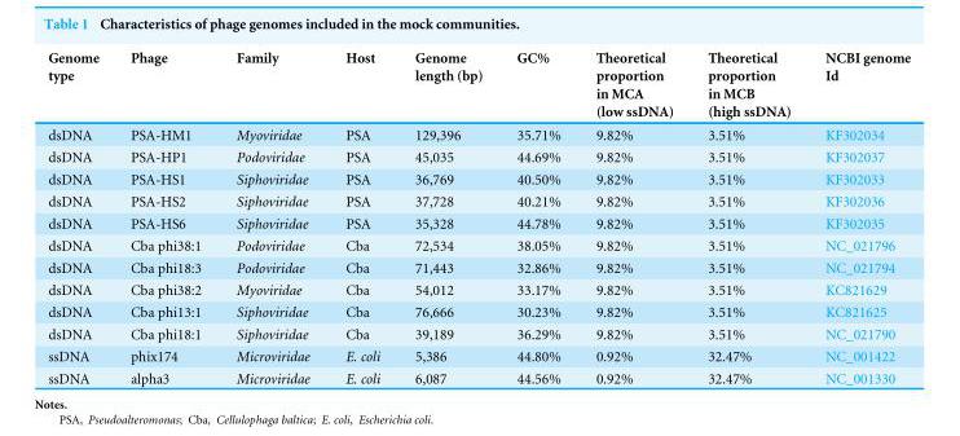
<table><thead><tr><td>Genome type</td><td>Phage</td><td>Family</td><td>Host</td><td>Genome length (bp)</td><td>GC%</td><td>Theoretical proportion in MCA (low ssDNA)</td><td>Theoretical proportion in MCB (high ssDNA)</td><td>NCBI genome Id</td></tr></thead><tbody><tr><td>dsDNA</td><td>PSA-HM1</td><td>Myoviridae</td><td>PSA</td><td>129,396</td><td>35.71%</td><td>9.82%</td><td>3.51%</td><td>KF302034</td></tr><tr><td>dsDNA</td><td>PSA-HP1</td><td>Podoviridae</td><td>PSA</td><td>45,035</td><td>44.69%</td><td>9.82%</td><td>3.51%</td><td>KF302037</td></tr><tr><td>dsDNA</td><td>PSA-HS1</td><td>Siphoviridae</td><td>PSA</td><td>36,769</td><td>40.50%</td><td>9.82%</td><td>3.51%</td><td>KF302033</td></tr><tr><td>dsDNA</td><td>PSA-HS2</td><td>Siphoviridae</td><td>PSA</td><td>37,728</td><td>40.21%</td><td>9.82%</td><td>3.51%</td><td>KF302036</td></tr><tr><td>dsDNA</td><td>PSA-HS6</td><td>Siphoviridae</td><td>PSA</td><td>35,328</td><td>44.78%</td><td>9.82%</td><td>3.51%</td><td>KF302035</td></tr><tr><td>dsDNA</td><td>Cba phi38:1</td><td>Podoviridae</td><td>Cba</td><td>72,534</td><td>38.05%</td><td>9.82%</td><td>3.51%</td><td>NC_021796</td></tr><tr><td>dsDNA</td><td>Cba phi18:3</td><td>Podoviridae</td><td>Cba</td><td>71,443</td><td>32.86%</td><td>9.82%</td><td>3.51%</td><td>NC_021794</td></tr><tr><td>dsDNA</td><td>Cba phi38:2</td><td>Myoviridae</td><td>Cba</td><td>54,012</td><td>33.17%</td><td>9.82%</td><td>3.51%</td><td>KC821629</td></tr><tr><td>dsDNA</td><td>Cba phi13:1</td><td>Siphoviridae</td><td>Cba</td><td>76,666</td><td>30.23%</td><td>9.82%</td><td>3.51%</td><td>KC821625</td></tr><tr><td>dsDNA</td><td>Cba phi18:1</td><td>Siphoviridae</td><td>Cba</td><td>39,189</td><td>36.29%</td><td>9.82%</td><td>3.51%</td><td>NC_021790</td></tr><tr><td>ssDNA</td><td>phix174</td><td>Microviridae</td><td>E. coli</td><td>5,386</td><td>44.80%</td><td>0.92%</td><td>32.47%</td><td>NC_001422</td></tr><tr><td>ssDNA</td><td>alpha3</td><td>Microviridae</td><td>E. coli</td><td>6,087</td><td>44.56%</td><td>0.92%</td><td>32.47%</td><td>NC_001330</td></tr></tbody></table>